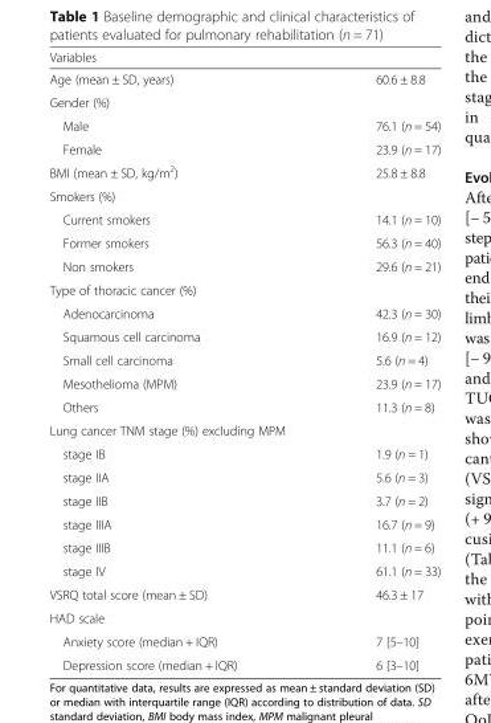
<table><thead><tr><td colspan="2">Variables</td></tr><tr><td>Age (mean ± SD, years)</td><td>60.6 ± 8.8</td></tr></thead><tbody><tr><td colspan="2">Gender (%)</td></tr><tr><td>Male</td><td>76.1 (n = 54)</td></tr><tr><td>Female</td><td>23.9 (n = 17)</td></tr><tr><td>BMI (mean ± SD, kg/m<sup>2</sup>)</td><td>25.8 ± 8.8</td></tr><tr><td colspan="2">Smokers (%)</td></tr><tr><td>Current smokers</td><td>14.1 (n = 10)</td></tr><tr><td>Former smokers</td><td>56.3 (n = 40)</td></tr><tr><td>Non smokers</td><td>29.6 (n = 21)</td></tr><tr><td colspan="2">Type of thoracic cancer (%)</td></tr><tr><td>Adenocarcinoma</td><td>42.3 (n = 30)</td></tr><tr><td>Squamous cell carcinoma</td><td>16.9 (n = 12)</td></tr><tr><td>Small cell carcinoma</td><td>5.6 (n = 4)</td></tr><tr><td>Mesothelioma (MPM)</td><td>23.9 (n = 17)</td></tr><tr><td>Others</td><td>11.3 (n = 8)</td></tr><tr><td colspan="2">Lung cancer TNM stage (%) excluding MPM</td></tr><tr><td>stage IB</td><td>1.9 (n = 1)</td></tr><tr><td>stage IIA</td><td>5.6 (n = 3)</td></tr><tr><td>stage IIB</td><td>3.7 (n = 2)</td></tr><tr><td>stage IIIA</td><td>16.7 (n = 9)</td></tr><tr><td>stage IIIB</td><td>11.1 (n = 6)</td></tr><tr><td>stage IV</td><td>61.1 (n = 33)</td></tr><tr><td>VSRQ total score (mean ± SD)</td><td>46.3 ± 17</td></tr><tr><td colspan="2">HAD scale</td></tr><tr><td>Anxiety score (median + IQR)</td><td>7 [5–10]</td></tr><tr><td>Depression score (median + IQR)</td><td>6 [3–10]</td></tr></tbody></table>